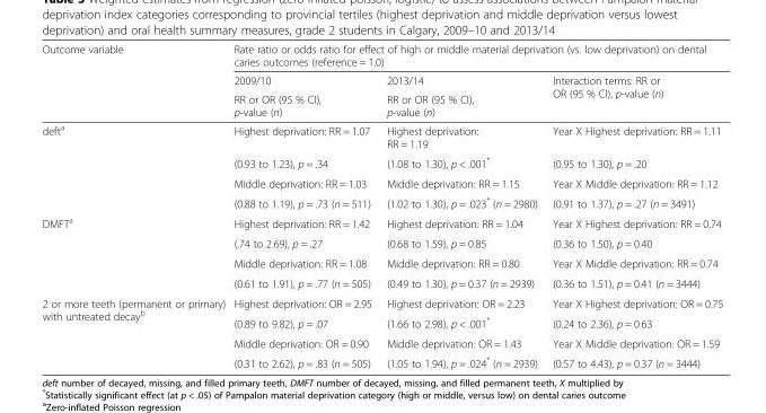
<table><thead><tr><td rowspan="3">Outcome variable</td><td colspan="3">Rate ratio or odds ratio for effect of high or middle material deprivation (vs. low deprivation) on dental caries outcomes (reference = 1.0)</td></tr><tr><td rowspan="2">2009/10 RR or OR (95 % CI), p-value (n)</td><td rowspan="2">2013/14 RR or OR (95 % CI), p-value (n)</td><td rowspan="2">Interaction terms: RR or OR (95 % CI), p-value (n)</td></tr><tr></tr></thead><tbody><tr><td rowspan="4">deft<sup>a</sup></td><td>Highest deprivation: RR = 1.07</td><td>Highest deprivation: RR = 1.19</td><td>Year X Highest deprivation: RR = 1.11</td></tr><tr><td>(0.93 to 1.23), p = .34</td><td>(1.08 to 1.30), p &lt; .001*</td><td>(0.95 to 1.30), p = .20</td></tr><tr><td>Middle deprivation: RR = 1.03</td><td>Middle deprivation: RR = 1.15</td><td>Year X Middle deprivation: RR = 1.12</td></tr><tr><td>(0.88 to 1.19), p = .73 (n = 511)</td><td>(1.02 to 1.30), p = .023* (n = 2980)</td><td>(0.91 to 1.37), p = .27 (n = 3491)</td></tr><tr><td rowspan="4">DMFT<sup>a</sup></td><td>Highest deprivation: RR = 1.42</td><td>Highest deprivation: RR = 1.04</td><td>Year X Highest deprivation: RR = 0.74</td></tr><tr><td>(.74 to 2.69), p = .27</td><td>(0.68 to 1.59), p = 0.85</td><td>(0.36 to 1.50), p = 0.40</td></tr><tr><td>Middle deprivation: RR = 1.08</td><td>Middle deprivation: RR = 0.80</td><td>Year X Middle deprivation: RR = 0.74</td></tr><tr><td>(0.61 to 1.91), p = .77 (n = 505)</td><td>(0.49 to 1.30), p = 0.37 (n = 2939)</td><td>(0.36 to 1.51), p = 0.41 (n = 3444)</td></tr><tr><td rowspan="4">2 or more teeth (permanent or primary) with untreated decay<sup>b</sup></td><td>Highest deprivation: OR = 2.95</td><td>Highest deprivation: OR = 2.23</td><td>Year X Highest deprivation: OR = 0.75</td></tr><tr><td>(0.89 to 9.82), p = .07</td><td>(1.66 to 2.98), p &lt; .001*</td><td>(0.24 to 2.36), p = 0.63</td></tr><tr><td>Middle deprivation: OR = 0.90</td><td>Middle deprivation: OR = 1.43</td><td>Year X Middle deprivation: OR = 1.59</td></tr><tr><td>(0.31 to 2.62), p = .83 (n = 505)</td><td>(1.05 to 1.94), p = .024* (n = 2939)</td><td>(0.57 to 4.43), p = 0.37 (n = 3444)</td></tr></tbody></table>